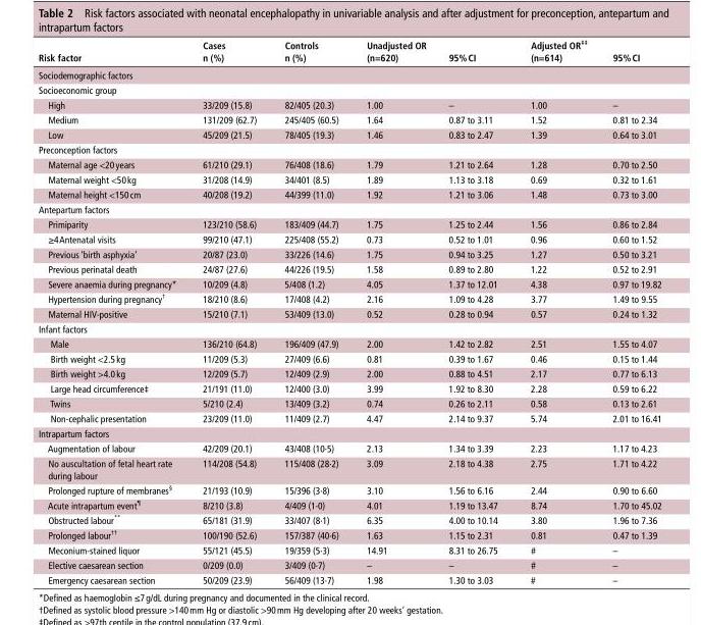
<table><thead><tr><td>Risk factor</td><td>Cases n (%)</td><td>Controls n (%)</td><td>unadjusted OR (n=620)</td><td>95% CI</td><td>Adjusted OR<sup>‡‡</sup> (n=614)</td><td>95% CI</td></tr></thead><tbody><tr><td colspan="7">Sociodemographic factors</td></tr><tr><td colspan="7">Socioeconomic group</td></tr><tr><td>High</td><td>33/209 (15.8)</td><td>82/405 (20.3)</td><td>1.00</td><td>–</td><td>1.00</td><td>–</td></tr><tr><td>Medium</td><td>131/209 (62.7)</td><td>245/405 (60.5)</td><td>1.64</td><td>0.87 to 3.11</td><td>1.52</td><td>0.81 to 2.34</td></tr><tr><td>Low</td><td>45/209 (21.5)</td><td>78/405 (19.3)</td><td>1.46</td><td>0.83 to 2.47</td><td>1.39</td><td>0.64 to 3.01</td></tr><tr><td colspan="7">Preconception factors</td></tr><tr><td>Maternal age &lt;20 years</td><td>61/210 (29.1)</td><td>76/408 (18.6)</td><td>1.79</td><td>1.21 to 2.64</td><td>1.28</td><td>0.70 to 2.50</td></tr><tr><td>Maternal weight &lt;50 kg</td><td>31/208 (14.9)</td><td>34/401 (8.5)</td><td>1.89</td><td>1.13 to 3.18</td><td>0.69</td><td>0.32 to 1.61</td></tr><tr><td>Maternal height &lt;150 cm</td><td>40/208 (19.2)</td><td>44/399 (11.0)</td><td>1.92</td><td>1.21 to 3.06</td><td>1.48</td><td>0.73 to 3.00</td></tr><tr><td colspan="7">Antepartum factors</td></tr><tr><td>Primiparity</td><td>123/210 (58.6)</td><td>183/409 (44.7)</td><td>1.75</td><td>1.25 to 2.44</td><td>1.56</td><td>0.86 to 2.84</td></tr><tr><td>≥4 Antenatal visits</td><td>99/210 (47.1)</td><td>225/408 (55.2)</td><td>0.73</td><td>0.52 to 1.01</td><td>0.96</td><td>0.60 to 1.52</td></tr><tr><td>Previous ‘birth asphyxia’</td><td>20/87 (23.0)</td><td>33/226 (14.6)</td><td>1.75</td><td>0.94 to 3.25</td><td>1.27</td><td>0.50 to 3.21</td></tr><tr><td>Previous perinatal death</td><td>24/87 (27.6)</td><td>44/226 (19.5)</td><td>1.58</td><td>0.89 to 2.80</td><td>1.22</td><td>0.52 to 2.91</td></tr><tr><td>Severe anaemia during pregnancy*</td><td>10/209 (4.8)</td><td>5/408 (1.2)</td><td>4.05</td><td>1.37 to 12.01</td><td>4.38</td><td>0.97 to 19.82</td></tr><tr><td>Hypertension during pregnancy<sup>†</sup></td><td>18/210 (8.6)</td><td>17/408 (4.2)</td><td>2.16</td><td>1.09 to 4.28</td><td>3.77</td><td>1.49 to 9.55</td></tr><tr><td>Maternal HIV-positive</td><td>15/210 (7.1)</td><td>53/409 (13.0)</td><td>0.52</td><td>0.28 to 0.94</td><td>0.57</td><td>0.24 to 1.32</td></tr><tr><td colspan="7">Infant factors</td></tr><tr><td>Male</td><td>136/210 (64.8)</td><td>196/409 (47.9)</td><td>2.00</td><td>1.42 to 2.82</td><td>2.51</td><td>1.55 to 4.07</td></tr><tr><td>Birth weight &lt;2.5 kg</td><td>11/209 (5.3)</td><td>27/409 (6.6)</td><td>0.81</td><td>0.39 to 1.67</td><td>0.46</td><td>0.15 to 1.44</td></tr><tr><td>Birth weight &gt;4.0 kg</td><td>12/209 (5.7)</td><td>12/409 (2.9)</td><td>2.00</td><td>0.88 to 4.51</td><td>2.17</td><td>0.77 to 6.13</td></tr><tr><td>Large head circumference‡</td><td>21/191 (11.0)</td><td>12/400 (3.0)</td><td>3.99</td><td>1.92 to 8.30</td><td>2.28</td><td>0.59 to 6.22</td></tr><tr><td>Twins</td><td>5/210 (2.4)</td><td>13/409 (3.2)</td><td>0.74</td><td>0.26 to 2.11</td><td>0.58</td><td>0.13 to 2.61</td></tr><tr><td>Non-cephalic presentation</td><td>23/209 (11.0)</td><td>11/409 (2.7)</td><td>4.47</td><td>2.14 to 9.37</td><td>5.74</td><td>2.01 to 16.41</td></tr><tr><td colspan="7">Intrapartum factors</td></tr><tr><td>Augmentation of labour</td><td>42/209 (20.1)</td><td>43/408 (10·5)</td><td>2.13</td><td>1.34 to 3.39</td><td>2.23</td><td>1.17 to 4.23</td></tr><tr><td>No auscultation of fetal heart rate during labour</td><td>114/208 (54.8)</td><td>115/408 (28·2)</td><td>3.09</td><td>2.18 to 4.38</td><td>2.75</td><td>1.71 to 4.22</td></tr><tr><td>Prolonged rupture of membranes<sup>§</sup></td><td>21/193 (10.9)</td><td>15/396 (3·8)</td><td>3.10</td><td>1.56 to 6.16</td><td>2.44</td><td>0.90 to 6.60</td></tr><tr><td>Acute intrapartum event<sup>¶</sup></td><td>8/210 (3.8)</td><td>4/409 (1·0)</td><td>4.01</td><td>1.19 to 13.47</td><td>8.74</td><td>1.70 to 45.02</td></tr><tr><td>Obstructed labour**</td><td>65/181 (31.9)</td><td>33/407 (8·1)</td><td>6.35</td><td>4.00 to 10.14</td><td>3.80</td><td>1.96 to 7.36</td></tr><tr><td>Prolonged labour<sup>††</sup></td><td>100/190 (52.6)</td><td>157/387 (40·6)</td><td>1.63</td><td>1.15 to 2.31</td><td>0.81</td><td>0.47 to 1.39</td></tr><tr><td>Meconium-stained liquor</td><td>55/121 (45.5)</td><td>19/359 (5·3)</td><td>14.91</td><td>8.31 to 26.75</td><td>#</td><td>–</td></tr><tr><td>Elective caesarean section</td><td>0/209 (0.0)</td><td>3/409 (0·7)</td><td>–</td><td>–</td><td>#</td><td>–</td></tr><tr><td>Emergency caesarean section</td><td>50/209 (23.9)</td><td>56/409 (13·7)</td><td>1.98</td><td>1.30 to 3.03</td><td>#</td><td>–</td></tr></tbody></table>